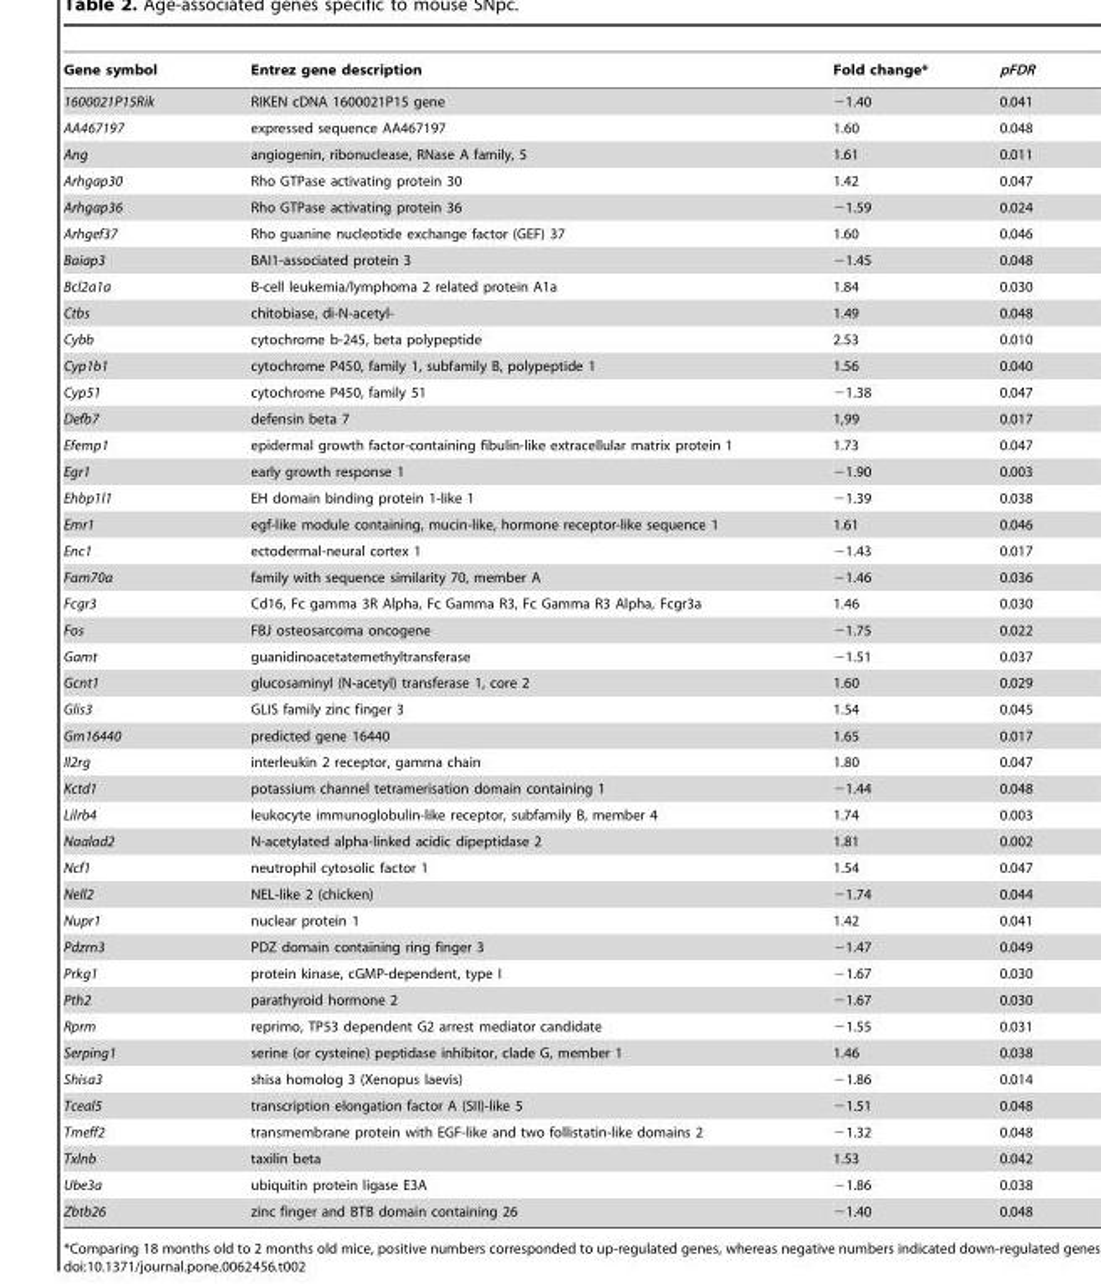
<table><thead><tr><td>Gene symbol</td><td>Entrez gene description</td><td>Fold change*</td><td>pFDR</td></tr></thead><tbody><tr><td>1600021P15Rik</td><td>RIKEN cDNA 1600021P15 gene</td><td>−1.40</td><td>0.041</td></tr><tr><td>AA467197</td><td>expressed sequence AA467197</td><td>1.60</td><td>0.048</td></tr><tr><td>Ang</td><td>angiogenin, ribonuclease, RNase A family, 5</td><td>1.61</td><td>0.011</td></tr><tr><td>Arhgap30</td><td>Rho GTPase activating protein 30</td><td>1.42</td><td>0.047</td></tr><tr><td>Arhgap36</td><td>Rho GTPase activating protein 36</td><td>−1.59</td><td>0.024</td></tr><tr><td>Arhgef37</td><td>Rho guanine nucleotide exchange factor (GEF) 37</td><td>1.60</td><td>0.046</td></tr><tr><td>Baiap3</td><td>BAI1-associated protein 3</td><td>−1.45</td><td>0.048</td></tr><tr><td>Bcl2a1a</td><td>B-cell leukemia/lymphoma 2 related protein A1a</td><td>1.84</td><td>0.030</td></tr><tr><td>Ctbs</td><td>chitobiase, di-N-acetyl-</td><td>1.49</td><td>0.048</td></tr><tr><td>Cybb</td><td>cytochrome b-245, beta polypeptide</td><td>2.53</td><td>0.010</td></tr><tr><td>Cyp1b1</td><td>cytochrome P450, family 1, subfamily B, polypeptide 1</td><td>1.56</td><td>0.040</td></tr><tr><td>Cyp51</td><td>cytochrome P450, family 51</td><td>−1.38</td><td>0.047</td></tr><tr><td>Defb7</td><td>defensin beta 7</td><td>1,99</td><td>0.017</td></tr><tr><td>Efemp1</td><td>epidermal growth factor-containing fibulin-like extracellular matrix protein 1</td><td>1.73</td><td>0.047</td></tr><tr><td>Egr1</td><td>early growth response 1</td><td>−1.90</td><td>0.003</td></tr><tr><td>Ehbp1l1</td><td>EH domain binding protein 1-like 1</td><td>−1.39</td><td>0.038</td></tr><tr><td>Emr1</td><td>egf-like module containing, mucin-like, hormone receptor-like sequence 1</td><td>1.61</td><td>0.046</td></tr><tr><td>Enc1</td><td>ectodermal-neural cortex 1</td><td>−1.43</td><td>0.017</td></tr><tr><td>Fam70a</td><td>family with sequence similarity 70, member A</td><td>−1.46</td><td>0.036</td></tr><tr><td>Fcgr3</td><td>Cd16, Fc gamma 3R Alpha, Fc Gamma R3, Fc Gamma R3 Alpha, Fcgr3a</td><td>1.46</td><td>0.030</td></tr><tr><td>Fos</td><td>FBJ osteosarcoma oncogene</td><td>−1.75</td><td>0.022</td></tr><tr><td>Gamt</td><td>guanidinoacetatemethyltransferase</td><td>−1.51</td><td>0.037</td></tr><tr><td>Gcnt1</td><td>glucosaminyl (N-acetyl) transferase 1, core 2</td><td>1.60</td><td>0.029</td></tr><tr><td>Glis3</td><td>GLIS family zinc finger 3</td><td>1.54</td><td>0.045</td></tr><tr><td>Gm16440</td><td>predicted gene 16440</td><td>1.65</td><td>0.017</td></tr><tr><td>Il2rg</td><td>interleukin 2 receptor, gamma chain</td><td>1.80</td><td>0.047</td></tr><tr><td>Kctd1</td><td>potassium channel tetramerisation domain containing 1</td><td>−1.44</td><td>0.048</td></tr><tr><td>Lilrb4</td><td>leukocyte immunoglobulin-like receptor, subfamily B, member 4</td><td>1.74</td><td>0.003</td></tr><tr><td>Naalad2</td><td>N-acetylated alpha-linked acidic dipeptidase 2</td><td>1.81</td><td>0.002</td></tr><tr><td>Ncf1</td><td>neutrophil cytosolic factor 1</td><td>1.54</td><td>0.047</td></tr><tr><td>Nell2</td><td>NEL-like 2 (chicken)</td><td>−1.74</td><td>0.044</td></tr><tr><td>Nupr1</td><td>nuclear protein 1</td><td>1.42</td><td>0.041</td></tr><tr><td>Pdzrn3</td><td>PDZ domain containing ring finger 3</td><td>−1.47</td><td>0.049</td></tr><tr><td>Prkg1</td><td>protein kinase, cGMP-dependent, type I</td><td>−1.67</td><td>0.030</td></tr><tr><td>Pth2</td><td>parathyroid hormone 2</td><td>−1.67</td><td>0.030</td></tr><tr><td>Rprm</td><td>reprimo, TP53 dependent G2 arrest mediator candidate</td><td>−1.55</td><td>0.031</td></tr><tr><td>Serping1</td><td>serine (or cysteine) peptidase inhibitor, clade G, member 1</td><td>1.46</td><td>0.038</td></tr><tr><td>Shisa3</td><td>shisa homolog 3 (Xenopus laevis)</td><td>−1.86</td><td>0.014</td></tr><tr><td>Tceal5</td><td>transcription elongation factor A (SII)-like 5</td><td>−1.51</td><td>0.048</td></tr><tr><td>Tmeff2</td><td>transmembrane protein with EGF-like and two follistatin-like domains 2</td><td>−1.32</td><td>0.048</td></tr><tr><td>Txlnb</td><td>taxilin beta</td><td>1.53</td><td>0.042</td></tr><tr><td>Ube3a</td><td>ubiquitin protein ligase E3A</td><td>−1.86</td><td>0.038</td></tr><tr><td>Zbtb26</td><td>zinc finger and BTB domain containing 26</td><td>−1.40</td><td>0.048</td></tr></tbody></table>